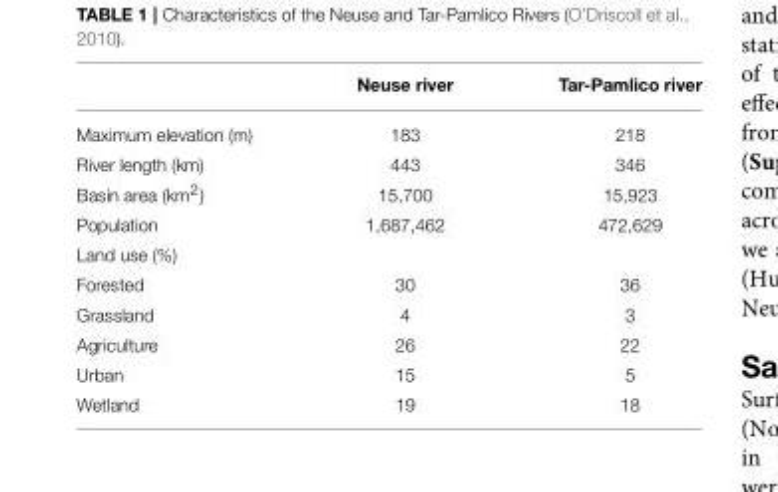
<table><thead><tr><td></td><td>Neuse river</td><td>Tar-Pamlico river</td></tr></thead><tbody><tr><td>Maximum elevation (m)</td><td>183</td><td>218</td></tr><tr><td>River length (km)</td><td>443</td><td>346</td></tr><tr><td>Basin area (km<sup>2</sup>)</td><td>15,700</td><td>15,923</td></tr><tr><td>Population</td><td>1,687,462</td><td>472,629</td></tr><tr><td colspan="3">Land use (%)</td></tr><tr><td>Forested</td><td>30</td><td>36</td></tr><tr><td>Grassland</td><td>4</td><td>3</td></tr><tr><td>Agriculture</td><td>26</td><td>22</td></tr><tr><td>Urban</td><td>15</td><td>5</td></tr><tr><td>Wetland</td><td>19</td><td>18</td></tr></tbody></table>